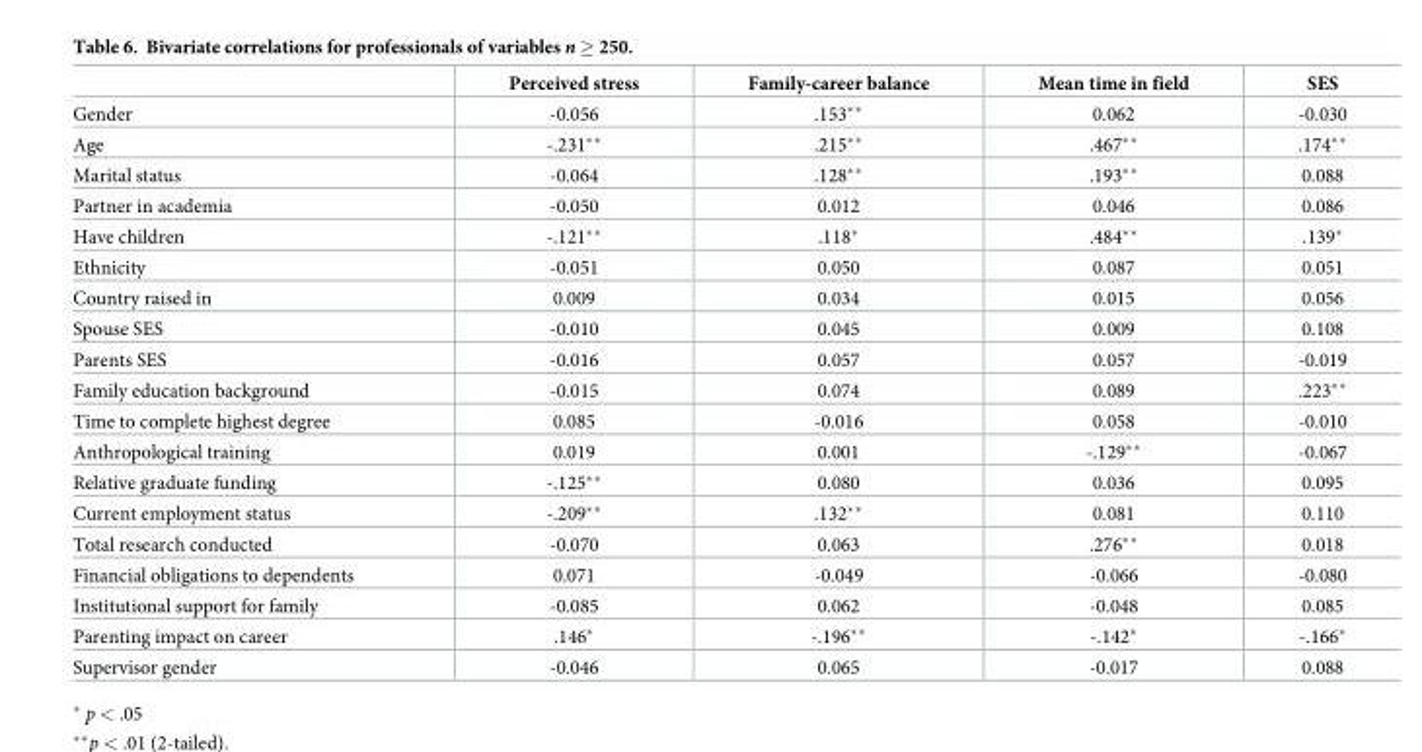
<table><thead><tr><td></td><td>Perceived stress</td><td>Family-career balance</td><td>Mean time in field</td><td>SES</td></tr></thead><tbody><tr><td>Gender</td><td>-0.056</td><td>.153**</td><td>0.062</td><td>-0.030</td></tr><tr><td>Age</td><td>-.231**</td><td>.215**</td><td>.467**</td><td>.174**</td></tr><tr><td>Marital status</td><td>-0.064</td><td>.128**</td><td>.193**</td><td>0.088</td></tr><tr><td>Partner in academia</td><td>-0.050</td><td>0.012</td><td>0.046</td><td>0.086</td></tr><tr><td>Have children</td><td>-.121**</td><td>.118*</td><td>.484**</td><td>.139*</td></tr><tr><td>Ethnicity</td><td>-0.051</td><td>0.050</td><td>0.087</td><td>0.051</td></tr><tr><td>Country raised in</td><td>0.009</td><td>0.034</td><td>0.015</td><td>0.056</td></tr><tr><td>Spouse SES</td><td>-0.010</td><td>0.045</td><td>0.009</td><td>0.108</td></tr><tr><td>Parents SES</td><td>-0.016</td><td>0.057</td><td>0.057</td><td>-0.019</td></tr><tr><td>Family education background</td><td>-0.015</td><td>0.074</td><td>0.089</td><td>.223**</td></tr><tr><td>Time to complete highest degree</td><td>0.085</td><td>-0.016</td><td>0.058</td><td>-0.010</td></tr><tr><td>Anthropological training</td><td>0.019</td><td>0.001</td><td>-.129**</td><td>-0.067</td></tr><tr><td>Relative graduate funding</td><td>-.125**</td><td>0.080</td><td>0.036</td><td>0.095</td></tr><tr><td>Current employment status</td><td>-.209**</td><td>.132**</td><td>0.081</td><td>0.110</td></tr><tr><td>Total research conducted</td><td>-0.070</td><td>0.063</td><td>.276**</td><td>0.018</td></tr><tr><td>Financial obligations to dependents</td><td>0.071</td><td>-0.049</td><td>-0.066</td><td>-0.080</td></tr><tr><td>Institutional support for family</td><td>-0.085</td><td>0.062</td><td>-0.048</td><td>0.085</td></tr><tr><td>Parenting impact on career</td><td>.146*</td><td>-.196**</td><td>-.142*</td><td>-.166*</td></tr><tr><td>Supervisor gender</td><td>-0.046</td><td>0.065</td><td>-0.017</td><td>0.088</td></tr></tbody></table>